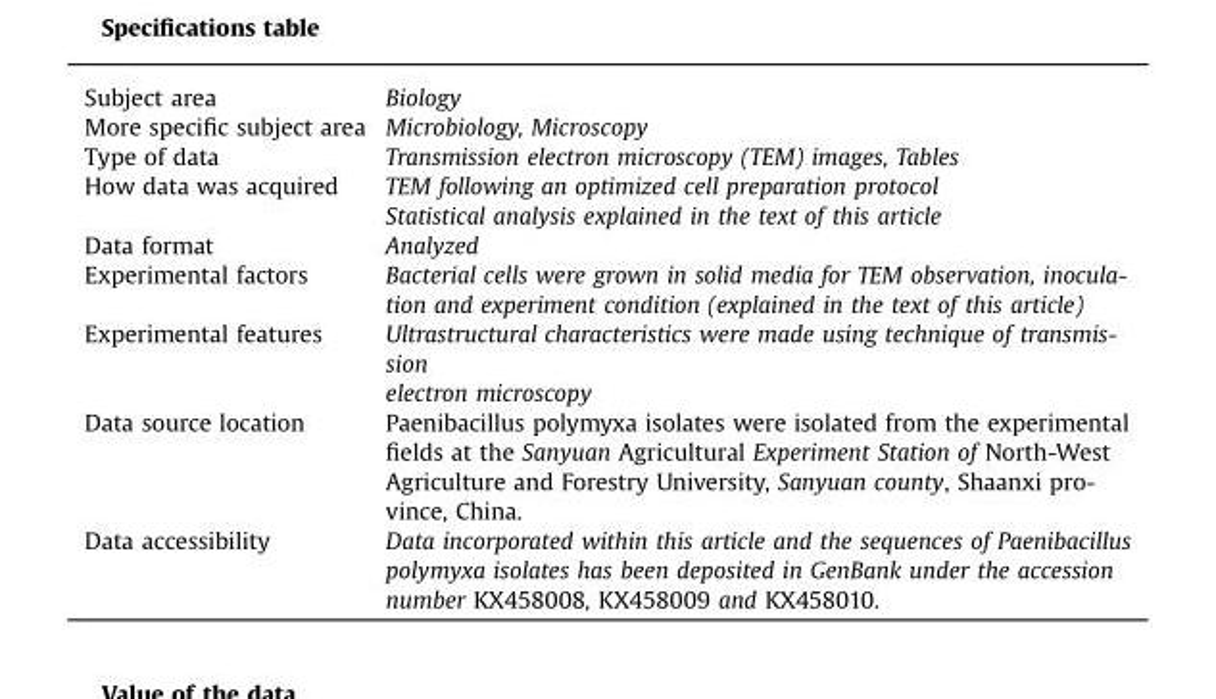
<table><tbody><tr><td>Subject area</td><td>Biology</td></tr><tr><td>More specific subject area</td><td>Microbiology, Microscopy</td></tr><tr><td>Type of data</td><td>Transmission electron microscopy (TEM) images, Tables</td></tr><tr><td rowspan="2">How data was acquired</td><td>TEM following an optimized cell preparation protocol</td></tr><tr><td>Statistical analysis explained in the text of this article</td></tr><tr><td>Data format</td><td>Analyzed</td></tr><tr><td>Experimental factors</td><td>Bacterial cells were grown in solid media for TEM observation, inocula- tion and experiment condition (explained in the text of this article)</td></tr><tr><td>Experimental features</td><td>Ultrastructural characteristics were made using technique of transmis- sion electron microscopy</td></tr><tr><td>Data source location</td><td>Paenibacillus polymyxa isolates were isolated from the experimental fields at the Sanyuan Agricultural Experiment Station of North-West Agriculture and Forestry University, Sanyuan county, Shaanxi pro- vince, China.</td></tr><tr><td>Data accessibility</td><td>Data incorporated within this article and the sequences of Paenibacillus polymyxa isolates has been deposited in GenBank under the accession number KX458008, KX458009 and KX458010.</td></tr></tbody></table>